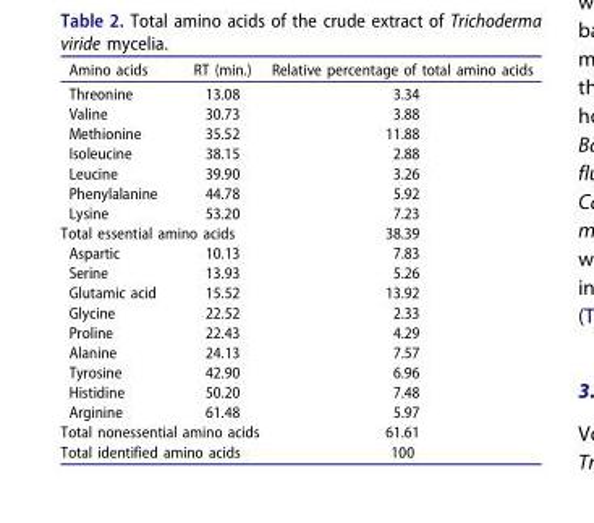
<table><thead><tr><td>Amino acids</td><td>RT (min.)</td><td>Relative percentage of total amino acids</td></tr></thead><tbody><tr><td>Threonine</td><td>13.08</td><td>3.34</td></tr><tr><td>Valine</td><td>30.73</td><td>3.88</td></tr><tr><td>Methionine</td><td>35.52</td><td>11.88</td></tr><tr><td>Isoleucine</td><td>38.15</td><td>2.88</td></tr><tr><td>Leucine</td><td>39.90</td><td>3.26</td></tr><tr><td>Phenylalanine</td><td>44.78</td><td>5.92</td></tr><tr><td>Lysine</td><td>53.20</td><td>7.23</td></tr><tr><td colspan="2">Total essential amino acids</td><td>38.39</td></tr><tr><td>Aspartic</td><td>10.13</td><td>7.83</td></tr><tr><td>Serine</td><td>13.93</td><td>5.26</td></tr><tr><td>Glutamic acid</td><td>15.52</td><td>13.92</td></tr><tr><td>Glycine</td><td>22.52</td><td>2.33</td></tr><tr><td>Proline</td><td>22.43</td><td>4.29</td></tr><tr><td>Alanine</td><td>24.13</td><td>7.57</td></tr><tr><td>Tyrosine</td><td>42.90</td><td>6.96</td></tr><tr><td>Histidine</td><td>50.20</td><td>7.48</td></tr><tr><td>Arginine</td><td>61.48</td><td>5.97</td></tr><tr><td colspan="2">Total nonessential amino acids</td><td>61.61</td></tr><tr><td colspan="2">Total identified amino acids</td><td>100</td></tr></tbody></table>